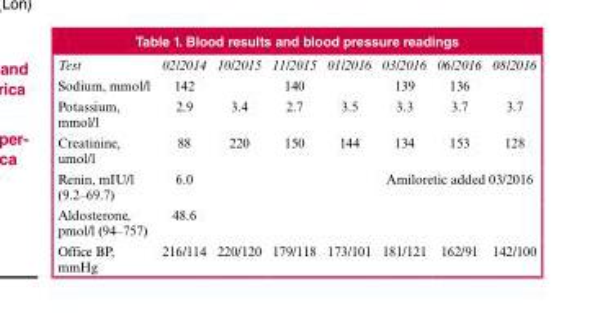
<table><thead><tr><td>Test</td><td>02/2014</td><td>10/2015</td><td>11/2015</td><td>01/2016</td><td>03/2016</td><td>06/2016</td><td>08/2016</td></tr></thead><tbody><tr><td>Sodium, mmol/l</td><td>142</td><td></td><td>140</td><td></td><td>139</td><td>136</td><td></td></tr><tr><td>Potassium, mmol/l</td><td>2.9</td><td>3.4</td><td>2.7</td><td>3.5</td><td>3.3</td><td>3.7</td><td>3.7</td></tr><tr><td>Creatinine, umol/l</td><td>88</td><td>220</td><td>150</td><td>144</td><td>134</td><td>153</td><td>128</td></tr><tr><td>Renin, mIU/l (9.2–69.7)</td><td>6.0</td><td></td><td></td><td></td><td colspan="3">Amiloretic added 03/2016</td></tr><tr><td>Aldosterone, pmol/l (94–757)</td><td>48.6</td><td></td><td></td><td></td><td></td><td></td><td></td></tr><tr><td>Office BP, mmHg</td><td>216/114</td><td>220/120</td><td>179/118</td><td>173/101</td><td>181/121</td><td>162/91</td><td>142/100</td></tr></tbody></table>